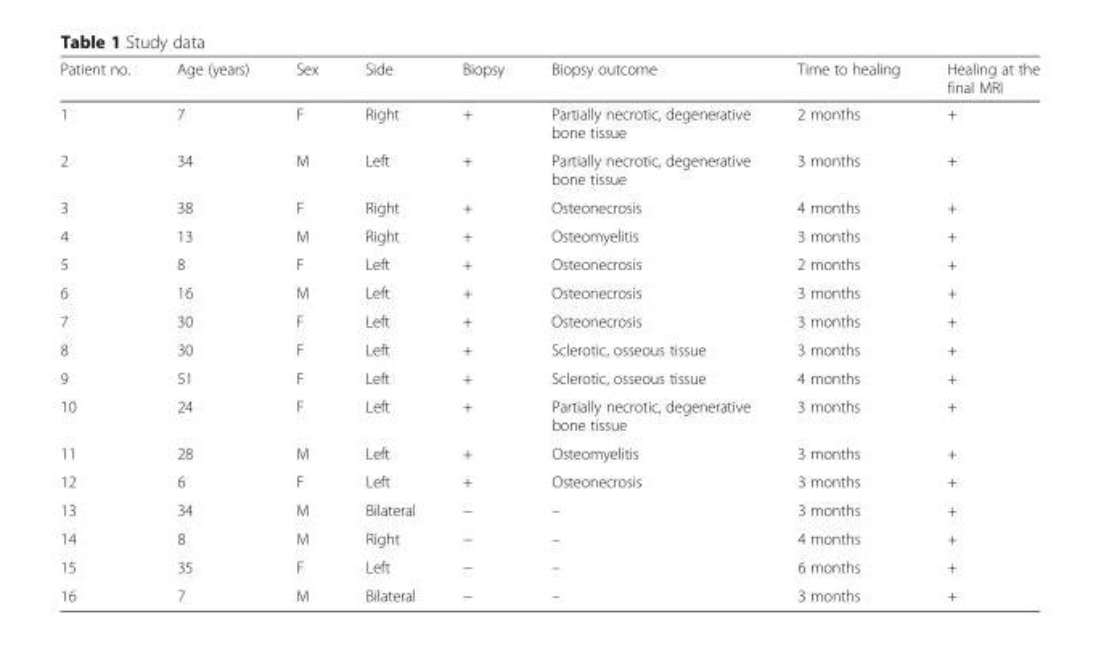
<table><thead><tr><td>Patient no.</td><td>Age (years)</td><td>Sex</td><td>Side</td><td>Biopsy</td><td>Biopsy outcome</td><td>Time to healing</td><td>Healing at the final MRI</td></tr></thead><tbody><tr><td>1</td><td>7</td><td>F</td><td>Right</td><td>+</td><td>Partially necrotic, degenerative bone tissue</td><td>2 months</td><td>+</td></tr><tr><td>2</td><td>34</td><td>M</td><td>Left</td><td>+</td><td>Partially necrotic, degenerative bone tissue</td><td>3 months</td><td>+</td></tr><tr><td>3</td><td>38</td><td>F</td><td>Right</td><td>+</td><td>Osteonecrosis</td><td>4 months</td><td>+</td></tr><tr><td>4</td><td>13</td><td>M</td><td>Right</td><td>+</td><td>Osteomyelitis</td><td>3 months</td><td>+</td></tr><tr><td>5</td><td>8</td><td>F</td><td>Left</td><td>+</td><td>Osteonecrosis</td><td>2 months</td><td>+</td></tr><tr><td>6</td><td>16</td><td>M</td><td>Left</td><td>+</td><td>Osteonecrosis</td><td>3 months</td><td>+</td></tr><tr><td>7</td><td>30</td><td>F</td><td>Left</td><td>+</td><td>Osteonecrosis</td><td>3 months</td><td>+</td></tr><tr><td>8</td><td>30</td><td>F</td><td>Left</td><td>+</td><td>Sclerotic, osseous tissue</td><td>3 months</td><td>+</td></tr><tr><td>9</td><td>51</td><td>F</td><td>Left</td><td>+</td><td>Sclerotic, osseous tissue</td><td>4 months</td><td>+</td></tr><tr><td>10</td><td>24</td><td>F</td><td>Left</td><td>+</td><td>Partially necrotic, degenerative bone tissue</td><td>3 months</td><td>+</td></tr><tr><td>11</td><td>28</td><td>M</td><td>Left</td><td>+</td><td>Osteomyelitis</td><td>3 months</td><td>+</td></tr><tr><td>12</td><td>6</td><td>F</td><td>Left</td><td>+</td><td>Osteonecrosis</td><td>3 months</td><td>+</td></tr><tr><td>13</td><td>34</td><td>M</td><td>Bilateral</td><td>−</td><td>–</td><td>3 months</td><td>+</td></tr><tr><td>14</td><td>8</td><td>M</td><td>Right</td><td>−</td><td>–</td><td>4 months</td><td>+</td></tr><tr><td>15</td><td>35</td><td>F</td><td>Left</td><td>−</td><td>–</td><td>6 months</td><td>+</td></tr><tr><td>16</td><td>7</td><td>M</td><td>Bilateral</td><td>−</td><td>–</td><td>3 months</td><td>+</td></tr></tbody></table>